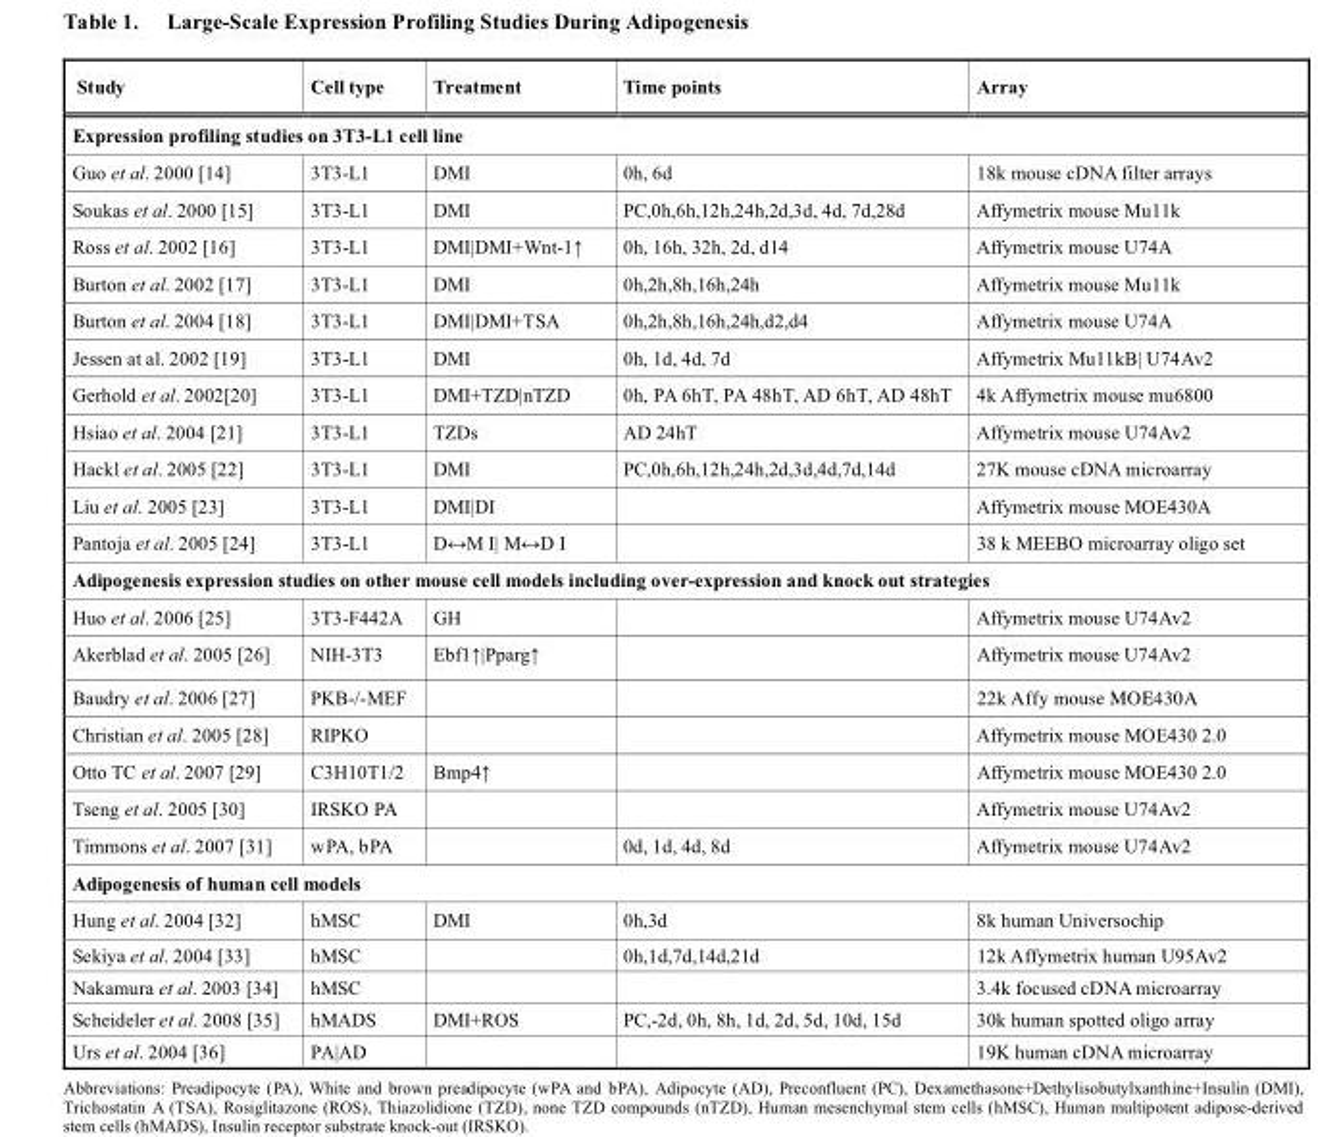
<table><thead><tr><td>Study</td><td>Cell type</td><td>Treatment</td><td>Time points</td><td>Array</td></tr></thead><tbody><tr><td colspan="5">Expression profiling studies on 3T3-L1 cell line</td></tr><tr><td>Guo et al. 2000 [14]</td><td>3T3-L1</td><td>DMI</td><td>0h, 6d</td><td>18k mouse cDNA filter arrays</td></tr><tr><td>Soukas et al. 2000 [15]</td><td>3T3-L1</td><td>DMI</td><td>PC,0h,6h,12h,24h,2d,3d, 4d, 7d,28d</td><td>Affymetrix mouse Mu11k</td></tr><tr><td>Ross et al. 2002 [16]</td><td>3T3-L1</td><td>DMI|DMI+Wnt-1↑</td><td>0h, 16h, 32h, 2d, d14</td><td>Affymetrix mouse U74A</td></tr><tr><td>Burton et al. 2002 [17]</td><td>3T3-L1</td><td>DMI</td><td>0h,2h,8h,16h,24h</td><td>Affymetrix mouse Mu11k</td></tr><tr><td>Burton et al. 2004 [18]</td><td>3T3-L1</td><td>DMI|DMI+TSA</td><td>0h,2h,8h,16h,24h,d2,d4</td><td>Affymetrix mouse U74A</td></tr><tr><td>Jessen at al. 2002 [19]</td><td>3T3-L1</td><td>DMI</td><td>0h, 1d, 4d, 7d</td><td>Affymetrix Mu11kB| U74Av2</td></tr><tr><td>Gerhold et al. 2002[20]</td><td>3T3-L1</td><td>DMI+TZD|nTZD</td><td>0h, PA 6hT, PA 48hT, AD 6hT, AD 48hT</td><td>4k Affymetrix mouse mu6800</td></tr><tr><td>Hsiao et al. 2004 [21]</td><td>3T3-L1</td><td>TZDs</td><td>AD 24hT</td><td>Affymetrix mouse U74Av2</td></tr><tr><td>Hackl et al. 2005 [22]</td><td>3T3-L1</td><td>DMI</td><td>PC,0h,6h,12h,24h,2d,3d,4d,7d,14d</td><td>27K mouse cDNA microarray</td></tr><tr><td>Liu et al. 2005 [23]</td><td>3T3-L1</td><td>DMI|DI</td><td></td><td>Affymetrix mouse MOE430A</td></tr><tr><td>Pantoja et al. 2005 [24]</td><td>3T3-L1</td><td>D↔M I| M↔D I</td><td></td><td>38 k MEEBO microarray oligo set</td></tr><tr><td colspan="5">Adipogenesis expression studies on other mouse cell models including over-expression and knock out strategies</td></tr><tr><td>Huo et al. 2006 [25]</td><td>3T3-F442A</td><td>GH</td><td></td><td>Affymetrix mouse U74Av2</td></tr><tr><td>Akerblad et al. 2005 [26]</td><td>NIH-3T3</td><td>Ebf1↑|Pparg↑</td><td></td><td>Affymetrix mouse U74Av2</td></tr><tr><td>Baudry et al. 2006 [27]</td><td>PKB-/-MEF</td><td></td><td></td><td>22k Affy mouse MOE430A</td></tr><tr><td>Christian et al. 2005 [28]</td><td>RIPKO</td><td></td><td></td><td>Affymetrix mouse MOE430 2.0</td></tr><tr><td>Otto TC et al. 2007 [29]</td><td>C3H10T1/2</td><td>Bmp4↑</td><td></td><td>Affymetrix mouse MOE430 2.0</td></tr><tr><td>Tseng et al. 2005 [30]</td><td>IRSKO PA</td><td></td><td></td><td>Affymetrix mouse U74Av2</td></tr><tr><td>Timmons et al. 2007 [31]</td><td>wPA, bPA</td><td></td><td>0d, 1d, 4d, 8d</td><td>Affymetrix mouse U74Av2</td></tr><tr><td colspan="5">Adipogenesis of human cell models</td></tr><tr><td>Hung et al. 2004 [32]</td><td>hMSC</td><td>DMI</td><td>0h,3d</td><td>8k human Universochip</td></tr><tr><td>Sekiya et al. 2004 [33]</td><td>hMSC</td><td></td><td>0h,1d,7d,14d,21d</td><td>12k Affymetrix human U95Av2</td></tr><tr><td>Nakamura et al. 2003 [34]</td><td>hMSC</td><td></td><td></td><td>3.4k focused cDNA microarray</td></tr><tr><td>Scheideler et al. 2008 [35]</td><td>hMADS</td><td>DMI+ROS</td><td>PC,-2d, 0h, 8h, 1d, 2d, 5d, 10d, 15d</td><td>30k human spotted oligo array</td></tr><tr><td>Urs et al. 2004 [36]</td><td>PA|AD</td><td></td><td></td><td>19K human cDNA microarray</td></tr></tbody></table>